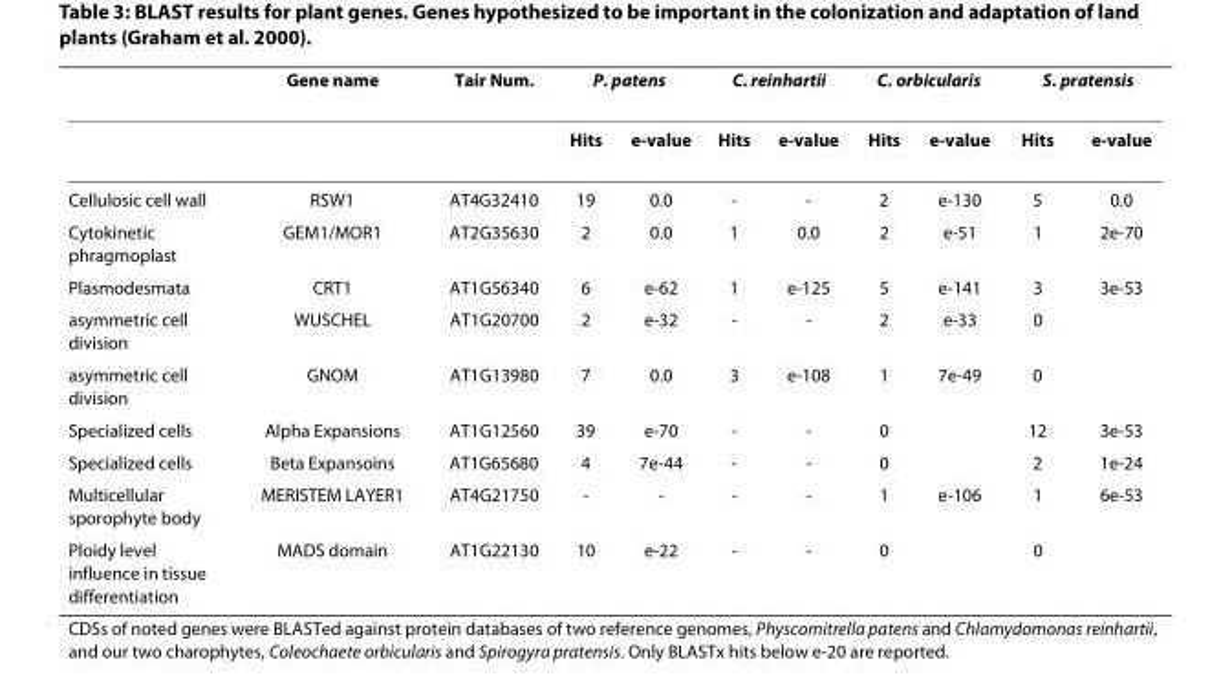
<table><thead><tr><td rowspan="2"></td><td rowspan="2">Gene name</td><td rowspan="2">Tair Num.</td><td colspan="2">P. patens</td><td colspan="2">C. reinhartii</td><td colspan="2">C. orbicularis</td><td colspan="2">S. pratensis</td></tr><tr><td>Hits</td><td>e-value</td><td>Hits</td><td>e-value</td><td>Hits</td><td>e-value</td><td>Hits</td><td>e-value</td></tr></thead><tbody><tr><td>Cellulosic cell wall</td><td>RSW1</td><td>AT4G32410</td><td>19</td><td>0.0</td><td>-</td><td>-</td><td>2</td><td>e-130</td><td>5</td><td>0.0</td></tr><tr><td>Cytokinetic phragmoplast</td><td>GEM1/MOR1</td><td>AT2G35630</td><td>2</td><td>0.0</td><td>1</td><td>0.0</td><td>2</td><td>e-51</td><td>1</td><td>2e-70</td></tr><tr><td>Plasmodesmata</td><td>CRT1</td><td>AT1G56340</td><td>6</td><td>e-62</td><td>1</td><td>e-125</td><td>5</td><td>e-141</td><td>3</td><td>3e-53</td></tr><tr><td>asymmetric cell division</td><td>WUSCHEL</td><td>AT1G20700</td><td>2</td><td>e-32</td><td>-</td><td>-</td><td>2</td><td>e-33</td><td>0</td><td></td></tr><tr><td>asymmetric cell division</td><td>GNOM</td><td>AT1G13980</td><td>7</td><td>0.0</td><td>3</td><td>e-108</td><td>1</td><td>7e-49</td><td>0</td><td></td></tr><tr><td>Specialized cells</td><td>Alpha Expansions</td><td>AT1G12560</td><td>39</td><td>e-70</td><td>-</td><td>-</td><td>0</td><td></td><td>12</td><td>3e-53</td></tr><tr><td>Specialized cells</td><td>Beta Expansoins</td><td>AT1G65680</td><td>4</td><td>7e-44</td><td>-</td><td>-</td><td>0</td><td></td><td>2</td><td>1e-24</td></tr><tr><td>Multicellular sporophyte body</td><td>MERISTEM LAYER1</td><td>AT4G21750</td><td>-</td><td>-</td><td>-</td><td>-</td><td>1</td><td>e-106</td><td>1</td><td>6e-53</td></tr><tr><td>Ploidy level influence in tissue differentiation</td><td>MADS domain</td><td>AT1G22130</td><td>10</td><td>e-22</td><td>-</td><td>-</td><td>0</td><td></td><td>0</td><td></td></tr></tbody></table>